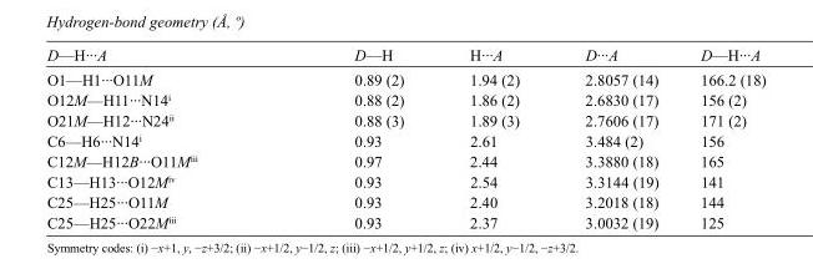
<table><tbody><tr><td>D—H···A</td><td>D—H</td><td>H···A</td><td>D···A</td><td>D—H···A</td></tr><tr><td>O1—H1···O11M</td><td>0.89 (2)</td><td>1.94 (2)</td><td>2.8057 (14)</td><td>166.2 (18)</td></tr><tr><td>O12M—H11···N14<sup>i</sup></td><td>0.88 (2)</td><td>1.86 (2)</td><td>2.6830 (17)</td><td>156 (2)</td></tr><tr><td>O21M—H12···N24<sup>ii</sup></td><td>0.88 (3)</td><td>1.89 (3)</td><td>2.7606 (17)</td><td>171 (2)</td></tr><tr><td>C6—H6···N14<sup>i</sup></td><td>0.93</td><td>2.61</td><td>3.484 (2)</td><td>156</td></tr><tr><td>C12M—H12B···O11M<sup>iii</sup></td><td>0.97</td><td>2.44</td><td>3.3880 (18)</td><td>165</td></tr><tr><td>C13—H13···O12M<sup>iv</sup></td><td>0.93</td><td>2.54</td><td>3.3144 (19)</td><td>141</td></tr><tr><td>C25—H25···O11M</td><td>0.93</td><td>2.40</td><td>3.2018 (18)</td><td>144</td></tr><tr><td>C25—H25···O22M<sup>iii</sup></td><td>0.93</td><td>2.37</td><td>3.0032 (19)</td><td>125</td></tr></tbody></table>